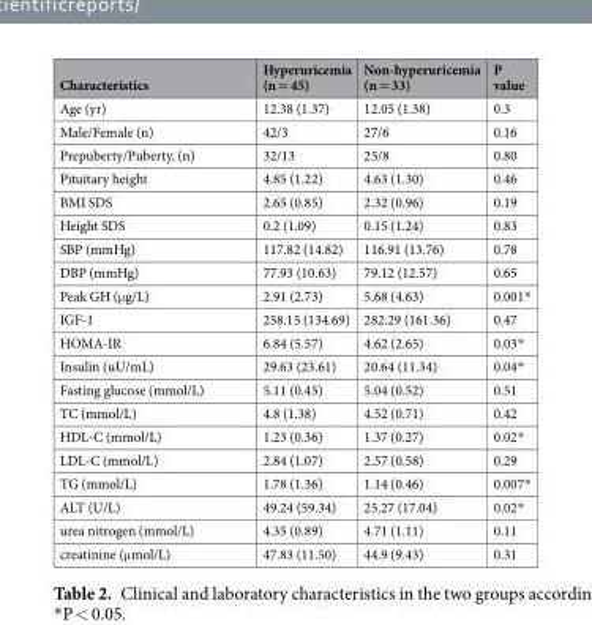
<table><thead><tr><td>Characteristics</td><td>Hyperuricemia (n = 45)</td><td>Non-hyperuricemia (n = 33)</td><td>P value</td></tr></thead><tbody><tr><td>Age (yr)</td><td>12.38 (1.37)</td><td>12.05 (1.38)</td><td>0.3</td></tr><tr><td>Male/Female (n)</td><td>42/3</td><td>27/6</td><td>0.16</td></tr><tr><td>Prepuberty/Puberty, (n)</td><td>32/13</td><td>25/8</td><td>0.80</td></tr><tr><td>Pituitary height</td><td>4.85 (1.22)</td><td>4.63 (1.30)</td><td>0.46</td></tr><tr><td>BMI SDS</td><td>2.65 (0.85)</td><td>2.32 (0.96)</td><td>0.19</td></tr><tr><td>Height SDS</td><td>0.2 (1.09)</td><td>0.15 (1.24)</td><td>0.83</td></tr><tr><td>SBP (mmHg)</td><td>117.82 (14.82)</td><td>116.91 (13.76)</td><td>0.78</td></tr><tr><td>DBP (mmHg)</td><td>77.93 (10.63)</td><td>79.12 (12.57)</td><td>0.65</td></tr><tr><td>Peak GH (μg/L)</td><td>2.91 (2.73)</td><td>5.68 (4.63)</td><td>0.001*</td></tr><tr><td>IGF-1</td><td>258.15 (134.69)</td><td>282.29 (161.36)</td><td>0.47</td></tr><tr><td>HOMA-IR</td><td>6.84 (5.57)</td><td>4.62 (2.65)</td><td>0.03*</td></tr><tr><td>Insulin (uU/mL)</td><td>29.63 (23.61)</td><td>20.64 (11.34)</td><td>0.04*</td></tr><tr><td>Fasting glucose (mmol/L)</td><td>5.11 (0.45)</td><td>5.04 (0.52)</td><td>0.51</td></tr><tr><td>TC (mmol/L)</td><td>4.8 (1.38)</td><td>4.52 (0.71)</td><td>0.42</td></tr><tr><td>HDL-C (mmol/L)</td><td>1.23 (0.36)</td><td>1.37 (0.27)</td><td>0.02*</td></tr><tr><td>LDL-C (mmol/L)</td><td>2.84 (1.07)</td><td>2.57 (0.58)</td><td>0.29</td></tr><tr><td>TG (mmol/L)</td><td>1.78 (1.36)</td><td>1.14 (0.46)</td><td>0.007*</td></tr><tr><td>ALT (U/L)</td><td>49.24 (59.34)</td><td>25.27 (17.04)</td><td>0.02*</td></tr><tr><td>urea nitrogen (mmol/L)</td><td>4.35 (0.89)</td><td>4.71 (1.11)</td><td>0.11</td></tr><tr><td>creatinine (μmol/L)</td><td>47.83 (11.50)</td><td>44.9 (9.43)</td><td>0.31</td></tr></tbody></table>